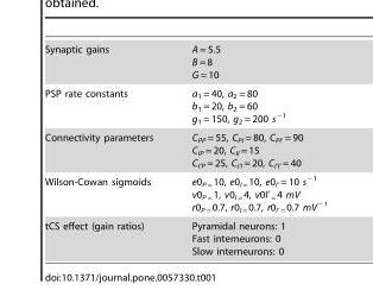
<table><tbody><tr><td>Synaptic gains</td><td>A = 5.5 B = 8 G = 10</td></tr><tr><td>PSP rate constants</td><td>a<sub>1</sub> = 40, a<sub>2</sub> = 80 b<sub>1</sub> = 20, b<sub>2</sub> = 60 g<sub>1</sub> = 150, g<sub>2</sub> = 200 s<sup>−1</sup></td></tr><tr><td>Connectivity parameters</td><td>C<sub>PP</sub> = 55, C<sub>PI</sub> = 80, C<sub>PI’</sub> = 90 C<sub>IP</sub> = 20, C<sub>II</sub> = 15 C<sub>I’P</sub> = 25, C<sub>I’I</sub> = 20, C<sub>I’I’</sub> = 40</td></tr><tr><td>Wilson-Cowan sigmoids</td><td>e0P =10, e0I =10, e0I’ = 10 s−1 v0P =1, v0I =4, v0I’ =4 mV r0P =0.7, r0I =0.7, r0I’ =0.7 mV−1</td></tr><tr><td>tCS effect (gain ratios)</td><td>Pyramidal neurons: 1 Fast interneurons: 0 Slow interneurons: 0</td></tr></tbody></table>